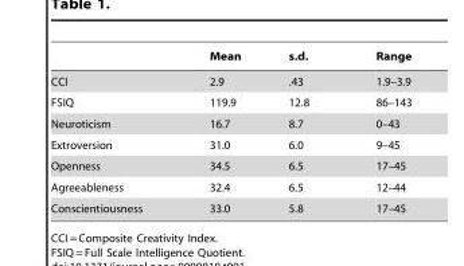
<table><thead><tr><td></td><td>Mean</td><td>s.d.</td><td>Range</td></tr></thead><tbody><tr><td>CCI</td><td>2.9</td><td>.43</td><td>1.9–3.9</td></tr><tr><td>FSIQ</td><td>119.9</td><td>12.8</td><td>86–143</td></tr><tr><td>Neuroticism</td><td>16.7</td><td>8.7</td><td>0–43</td></tr><tr><td>Extroversion</td><td>31.0</td><td>6.0</td><td>9–45</td></tr><tr><td>Openness</td><td>34.5</td><td>6.5</td><td>17–45</td></tr><tr><td>Agreeableness</td><td>32.4</td><td>6.5</td><td>12–44</td></tr><tr><td>Conscientiousness</td><td>33.0</td><td>5.8</td><td>17–45</td></tr></tbody></table>